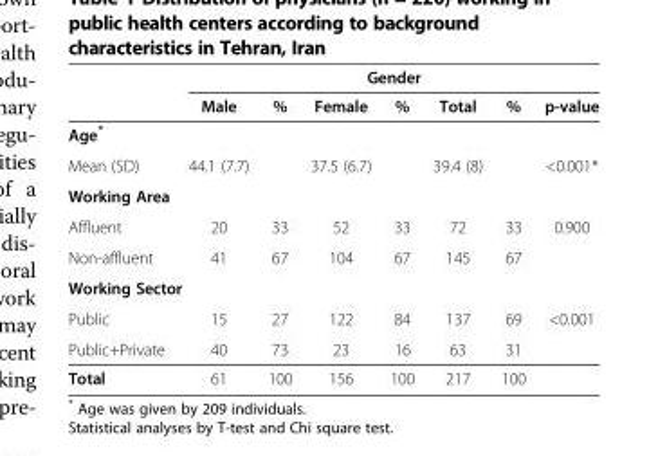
<table><thead><tr><td rowspan="2"></td><td colspan="7">Gender</td></tr><tr><td>Male</td><td>%</td><td>Female</td><td>%</td><td>Total</td><td>%</td><td>p-value</td></tr></thead><tbody><tr><td colspan="8">Age*</td></tr><tr><td>Mean (SD)</td><td>44.1 (7.7)</td><td></td><td>37.5 (6.7)</td><td></td><td>39.4 (8)</td><td></td><td>&lt;0.001*</td></tr><tr><td colspan="8">Working Area</td></tr><tr><td>Affluent</td><td>20</td><td>33</td><td>52</td><td>33</td><td>72</td><td>33</td><td>0.900</td></tr><tr><td>Non-affluent</td><td>41</td><td>67</td><td>104</td><td>67</td><td>145</td><td>67</td><td></td></tr><tr><td colspan="8">Working Sector</td></tr><tr><td>Public</td><td>15</td><td>27</td><td>122</td><td>84</td><td>137</td><td>69</td><td>&lt;0.001</td></tr><tr><td>Public+Private</td><td>40</td><td>73</td><td>23</td><td>16</td><td>63</td><td>31</td><td></td></tr><tr><td>Total</td><td>61</td><td>100</td><td>156</td><td>100</td><td>217</td><td>100</td><td></td></tr></tbody></table>